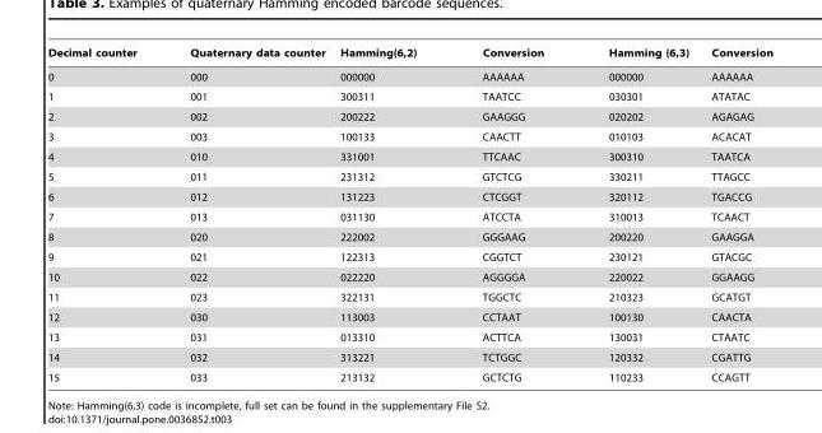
<table><thead><tr><td>Decimal counter</td><td>Quaternary data counter</td><td>Hamming(6,2)</td><td>Conversion</td><td>Hamming (6,3)</td><td>Conversion</td></tr></thead><tbody><tr><td>0</td><td>000</td><td>000000</td><td>AAAAAA</td><td>000000</td><td>AAAAAA</td></tr><tr><td>1</td><td>001</td><td>300311</td><td>TAATCC</td><td>030301</td><td>ATATAC</td></tr><tr><td>2</td><td>002</td><td>200222</td><td>GAAGGG</td><td>020202</td><td>AGAGAG</td></tr><tr><td>3</td><td>003</td><td>100133</td><td>CAACTT</td><td>010103</td><td>ACACAT</td></tr><tr><td>4</td><td>010</td><td>331001</td><td>TTCAAC</td><td>300310</td><td>TAATCA</td></tr><tr><td>5</td><td>011</td><td>231312</td><td>GTCTCG</td><td>330211</td><td>TTAGCC</td></tr><tr><td>6</td><td>012</td><td>131223</td><td>CTCGGT</td><td>320112</td><td>TGACCG</td></tr><tr><td>7</td><td>013</td><td>031130</td><td>ATCCTA</td><td>310013</td><td>TCAACT</td></tr><tr><td>8</td><td>020</td><td>222002</td><td>GGGAAG</td><td>200220</td><td>GAAGGA</td></tr><tr><td>9</td><td>021</td><td>122313</td><td>CGGTCT</td><td>230121</td><td>GTACGC</td></tr><tr><td>10</td><td>022</td><td>022220</td><td>AGGGGA</td><td>220022</td><td>GGAAGG</td></tr><tr><td>11</td><td>023</td><td>322131</td><td>TGGCTC</td><td>210323</td><td>GCATGT</td></tr><tr><td>12</td><td>030</td><td>113003</td><td>CCTAAT</td><td>100130</td><td>CAACTA</td></tr><tr><td>13</td><td>031</td><td>013310</td><td>ACTTCA</td><td>130031</td><td>CTAATC</td></tr><tr><td>14</td><td>032</td><td>313221</td><td>TCTGGC</td><td>120332</td><td>CGATTG</td></tr><tr><td>15</td><td>033</td><td>213132</td><td>GCTCTG</td><td>110233</td><td>CCAGTT</td></tr></tbody></table>